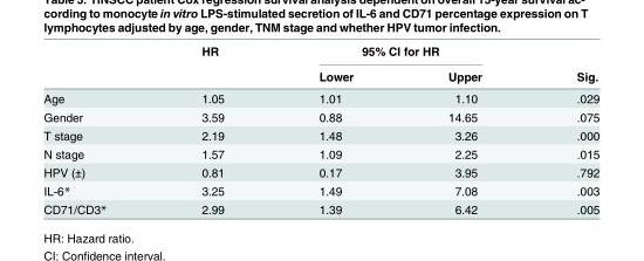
<table><thead><tr><td rowspan="2"></td><td rowspan="2">HR</td><td colspan="2">95% CI for HR</td><td rowspan="2">Sig.</td></tr><tr><td>Lower</td><td>Upper</td></tr></thead><tbody><tr><td>Age</td><td>1.05</td><td>1.01</td><td>1.10</td><td>.029</td></tr><tr><td>Gender</td><td>3.59</td><td>0.88</td><td>14.65</td><td>.075</td></tr><tr><td>T stage</td><td>2.19</td><td>1.48</td><td>3.26</td><td>.000</td></tr><tr><td>N stage</td><td>1.57</td><td>1.09</td><td>2.25</td><td>.015</td></tr><tr><td>HPV (±)</td><td>0.81</td><td>0.17</td><td>3.95</td><td>.792</td></tr><tr><td>IL-6*</td><td>3.25</td><td>1.49</td><td>7.08</td><td>.003</td></tr><tr><td>CD71/CD3*</td><td>2.99</td><td>1.39</td><td>6.42</td><td>.005</td></tr></tbody></table>